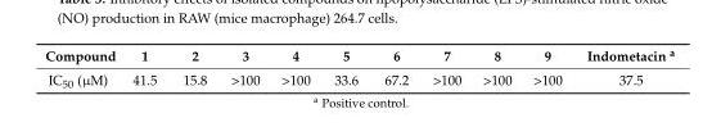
<table><thead><tr><td>Compound</td><td>1</td><td>2</td><td>3</td><td>4</td><td>5</td><td>6</td><td>7</td><td>8</td><td>9</td><td>Indometacin <sup>a</sup></td></tr></thead><tbody><tr><td>IC<sub>50</sub> (µM)</td><td>41.5</td><td>15.8</td><td>&gt;100</td><td>&gt;100</td><td>33.6</td><td>67.2</td><td>&gt;100</td><td>&gt;100</td><td>&gt;100</td><td>37.5</td></tr></tbody></table>